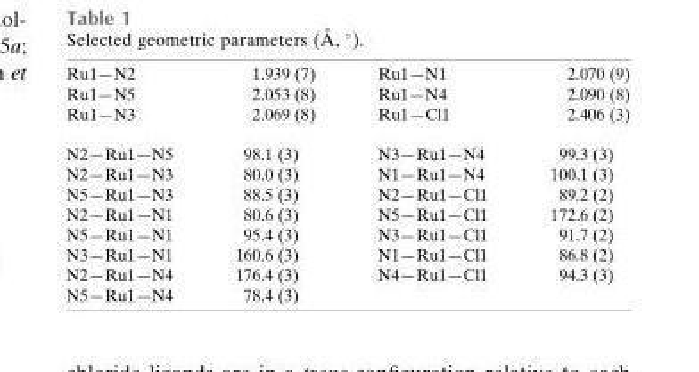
<table><tbody><tr><td>Ru1—N2</td><td>1.939 (7)</td><td>Ru1—N1</td><td>2.070 (9)</td></tr><tr><td>Ru1—N5</td><td>2.053 (8)</td><td>Ru1—N4</td><td>2.090 (8)</td></tr><tr><td>Ru1—N3</td><td>2.069 (8)</td><td>Ru1—Cl1</td><td>2.406 (3)</td></tr><tr><td>N2—Ru1—N5</td><td>98.1 (3)</td><td>N3—Ru1—N4</td><td>99.3 (3)</td></tr><tr><td>N2—Ru1—N3</td><td>80.0 (3)</td><td>N1—Ru1—N4</td><td>100.1 (3)</td></tr><tr><td>N5—Ru1—N3</td><td>88.5 (3)</td><td>N2—Ru1—Cl1</td><td>89.2 (2)</td></tr><tr><td>N2—Ru1—N1</td><td>80.6 (3)</td><td>N5—Ru1—Cl1</td><td>172.6 (2)</td></tr><tr><td>N5—Ru1—N1</td><td>95.4 (3)</td><td>N3—Ru1—Cl1</td><td>91.7 (2)</td></tr><tr><td>N3—Ru1—N1</td><td>160.6 (3)</td><td>N1—Ru1—Cl1</td><td>86.8 (2)</td></tr><tr><td>N2—Ru1—N4</td><td>176.4 (3)</td><td>N4—Ru1—Cl1</td><td>94.3 (3)</td></tr><tr><td>N5—Ru1—N4</td><td>78.4 (3)</td><td></td><td></td></tr></tbody></table>